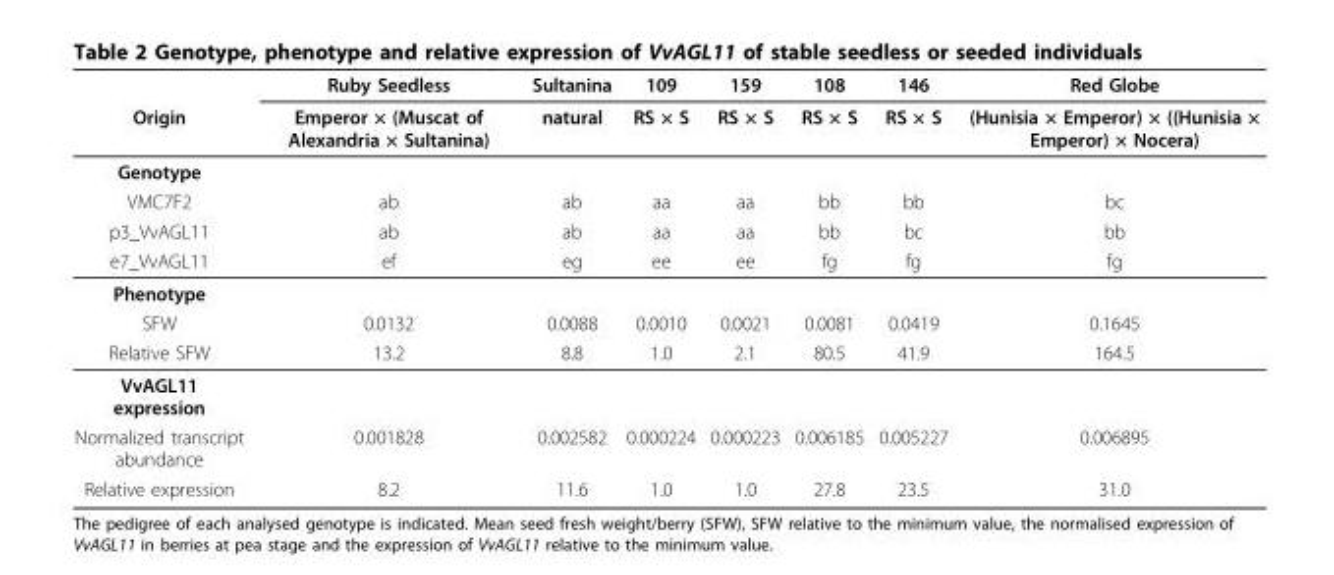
<table><thead><tr><td rowspan="2">Origin</td><td rowspan="2">Ruby Seedless Emperor × (Muscat of Alexandria × Sultanina)</td><td rowspan="2">Sultanina natural</td><td rowspan="2">109 RS × S</td><td rowspan="2">159 RS × S</td><td rowspan="2">108 RS × S</td><td rowspan="2">146 RS × S</td><td rowspan="2">Red Globe (Hunisia × Emperor) × ((Hunisia × Emperor) × Nocera)</td></tr><tr></tr></thead><tbody><tr><td colspan="8">Genotype</td></tr><tr><td>VMC7F2</td><td>ab</td><td>ab</td><td>aa</td><td>aa</td><td>bb</td><td>bb</td><td>bc</td></tr><tr><td>p3_VvAGL11</td><td>ab</td><td>ab</td><td>aa</td><td>aa</td><td>bb</td><td>bc</td><td>bb</td></tr><tr><td>e7_VvAGL11</td><td>ef</td><td>eg</td><td>ee</td><td>ee</td><td>fg</td><td>fg</td><td>fg</td></tr><tr><td colspan="8">Phenotype</td></tr><tr><td>SFW</td><td>0.0132</td><td>0.0088</td><td>0.0010</td><td>0.0021</td><td>0.0081</td><td>0.0419</td><td>0.1645</td></tr><tr><td>Relative SFW</td><td>13.2</td><td>8.8</td><td>1.0</td><td>2.1</td><td>80.5</td><td>41.9</td><td>164.5</td></tr><tr><td colspan="8">VvAGL11 expression</td></tr><tr><td>Normalized transcript abundance</td><td>0.001828</td><td>0.002582</td><td>0.000224</td><td>0.000223</td><td>0.006185</td><td>0.005227</td><td>0.006895</td></tr><tr><td>Relative expression</td><td>8.2</td><td>11.6</td><td>1.0</td><td>1.0</td><td>27.8</td><td>23.5</td><td>31.0</td></tr></tbody></table>